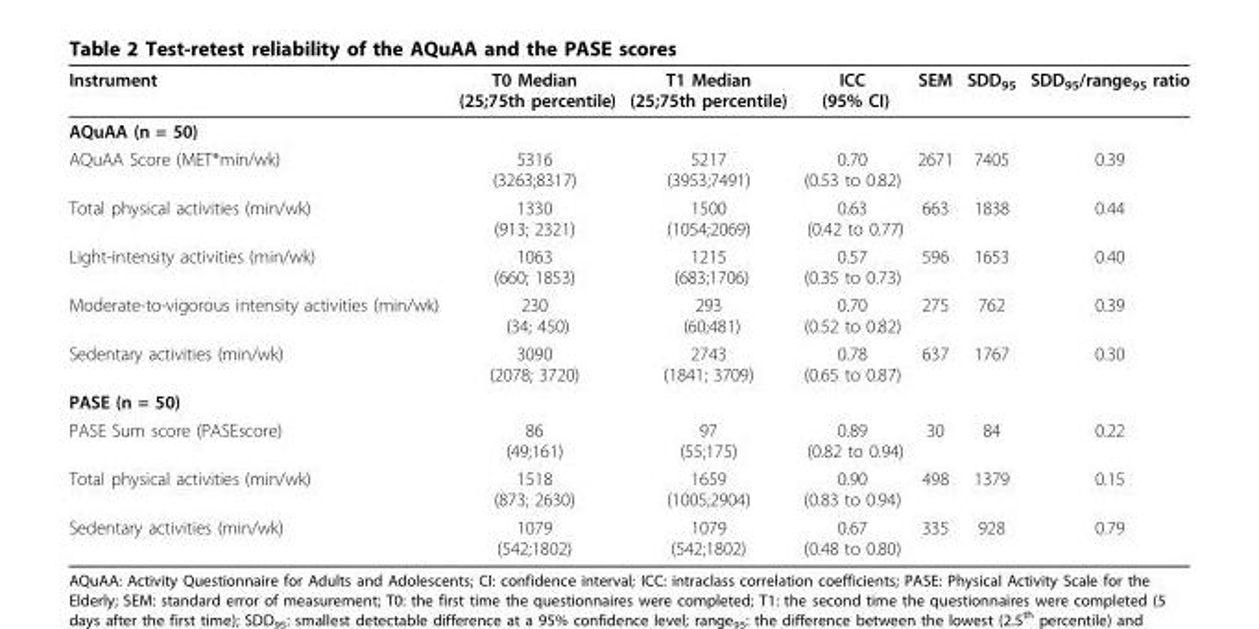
<table><thead><tr><td>Instrument</td><td>T0 Median (25;75th percentile)</td><td>T1 Median (25;75th percentile)</td><td>ICC (95% CI)</td><td>SEM</td><td>SDD<sub>95</sub></td><td>SDD<sub>95</sub>/range<sub>95</sub> ratio</td></tr></thead><tbody><tr><td colspan="7">AQuAA (n = 50)</td></tr><tr><td>AQuAA Score (MET*min/wk)</td><td>5316 (3263;8317)</td><td>5217 (3953;7491)</td><td>0.70 (0.53 to 0.82)</td><td>2671</td><td>7405</td><td>0.39</td></tr><tr><td>Total physical activities (min/wk)</td><td>1330 (913; 2321)</td><td>1500 (1054;2069)</td><td>0.63 (0.42 to 0.77)</td><td>663</td><td>1838</td><td>0.44</td></tr><tr><td>Light-intensity activities (min/wk)</td><td>1063 (660; 1853)</td><td>1215 (683;1706)</td><td>0.57 (0.35 to 0.73)</td><td>596</td><td>1653</td><td>0.40</td></tr><tr><td>Moderate-to-vigorous intensity activities (min/wk)</td><td>230 (34; 450)</td><td>293 (60;481)</td><td>0.70 (0.52 to 0.82)</td><td>275</td><td>762</td><td>0.39</td></tr><tr><td>Sedentary activities (min/wk)</td><td>3090 (2078; 3720)</td><td>2743 (1841; 3709)</td><td>0.78 (0.65 to 0.87)</td><td>637</td><td>1767</td><td>0.30</td></tr><tr><td colspan="7">PASE (n = 50)</td></tr><tr><td>PASE Sum score (PASEscore)</td><td>86 (49;161)</td><td>97 (55;175)</td><td>0.89 (0.82 to 0.94)</td><td>30</td><td>84</td><td>0.22</td></tr><tr><td>Total physical activities (min/wk)</td><td>1518 (873; 2630)</td><td>1659 (1005;2904)</td><td>0.90 (0.83 to 0.94)</td><td>498</td><td>1379</td><td>0.15</td></tr><tr><td>Sedentary activities (min/wk)</td><td>1079 (542;1802)</td><td>1079 (542;1802)</td><td>0.67 (0.48 to 0.80)</td><td>335</td><td>928</td><td>0.79</td></tr></tbody></table>